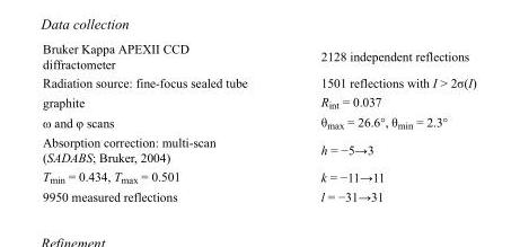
<table><tbody><tr><td>Bruker Kappa APEXII CCD diffractometer</td><td>2128 independent reflections</td></tr><tr><td>Radiation source: fine-focus sealed tube</td><td>1501 reflections with I &gt; 2σ(I)</td></tr><tr><td>graphite</td><td>R<sub>int</sub> = 0.037</td></tr><tr><td>ω and φ scans</td><td>θ<sub>max</sub> = 26.6°, θ<sub>min</sub> = 2.3°</td></tr><tr><td>Absorption correction: multi-scan (SADABS; Bruker, 2004)</td><td>h = −5→3</td></tr><tr><td>T<sub>min</sub> = 0.434, T<sub>max</sub> = 0.501</td><td>k = −11→11</td></tr><tr><td>9950 measured reflections</td><td>l = −31→31</td></tr></tbody></table>